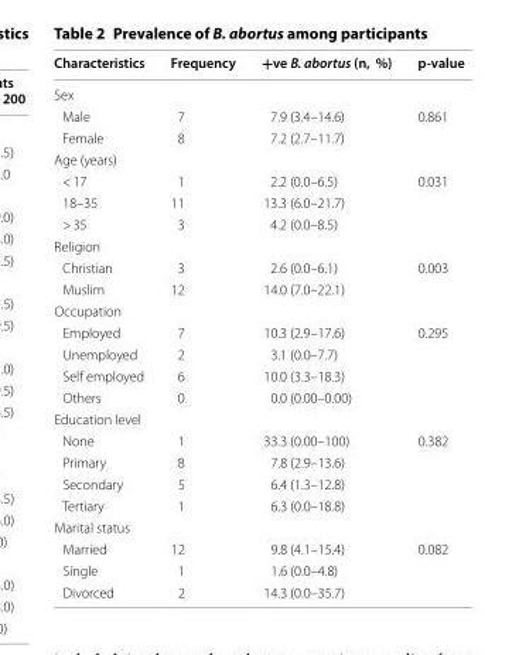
<table><thead><tr><td>Characteristics</td><td>Frequency</td><td>+ve B. abortus (n, %)</td><td>p-value</td></tr></thead><tbody><tr><td colspan="4">Sex</td></tr><tr><td>Male</td><td>7</td><td>7.9 (3.4–14.6)</td><td rowspan="2">0.861</td></tr><tr><td>Female</td><td>8</td><td>7.2 (2.7–11.7)</td></tr><tr><td colspan="4">Age (years)</td></tr><tr><td>&lt; 17</td><td>1</td><td>2.2 (0.0–6.5)</td><td rowspan="3">0.031</td></tr><tr><td>18–35</td><td>11</td><td>13.3 (6.0–21.7)</td></tr><tr><td>&gt; 35</td><td>3</td><td>4.2 (0.0–8.5)</td></tr><tr><td colspan="4">Religion</td></tr><tr><td>Christian</td><td>3</td><td>2.6 (0.0–6.1)</td><td rowspan="2">0.003</td></tr><tr><td>Muslim</td><td>12</td><td>14.0 (7.0–22.1)</td></tr><tr><td colspan="4">Occupation</td></tr><tr><td>Employed</td><td>7</td><td>10.3 (2.9–17.6)</td><td rowspan="4">0.295</td></tr><tr><td>Unemployed</td><td>2</td><td>3.1 (0.0–7.7)</td></tr><tr><td>Self employed</td><td>6</td><td>10.0 (3.3–18.3)</td></tr><tr><td>Others</td><td>0</td><td>0.0 (0.00–0.00)</td></tr><tr><td colspan="4">Education level</td></tr><tr><td>None</td><td>1</td><td>33.3 (0.00–100)</td><td rowspan="4">0.382</td></tr><tr><td>Primary</td><td>8</td><td>7.8 (2.9–13.6)</td></tr><tr><td>Secondary</td><td>5</td><td>6.4 (1.3–12.8)</td></tr><tr><td>Tertiary</td><td>1</td><td>6.3 (0.0–18.8)</td></tr><tr><td colspan="4">Marital status</td></tr><tr><td>Married</td><td>12</td><td>9.8 (4.1–15.4)</td><td rowspan="3">0.082</td></tr><tr><td>Single</td><td>1</td><td>1.6 (0.0–4.8)</td></tr><tr><td>Divorced</td><td>2</td><td>14.3 (0.0–35.7)</td></tr></tbody></table>